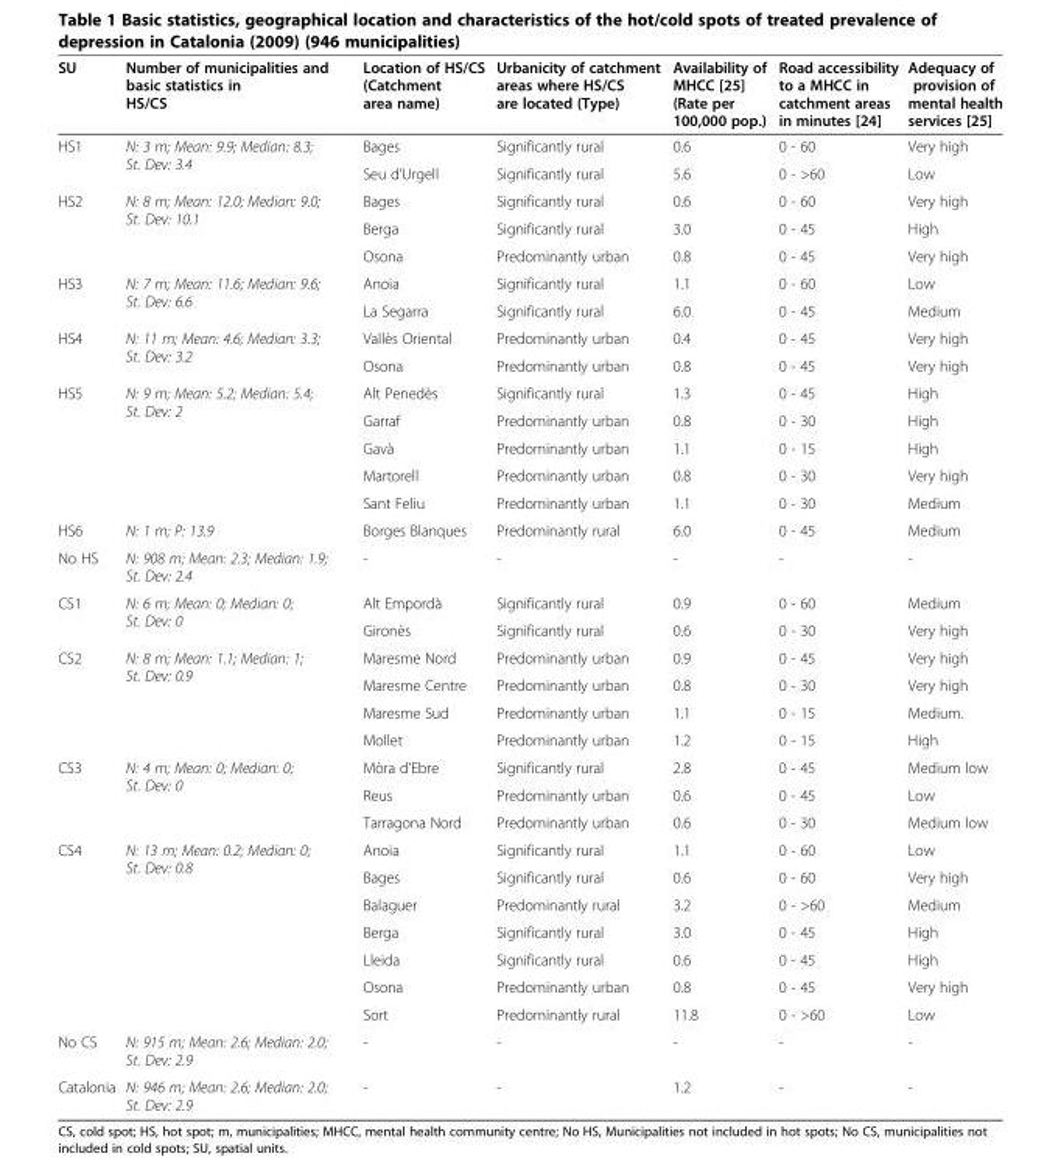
<table><thead><tr><td>SU</td><td>Number of municipalities and basic statistics in HS/CS</td><td>Location of HS/CS (Catchment area name)</td><td>Urbanicity of catchment areas where HS/CS are located (Type)</td><td>Availability of MHCC [25] (Rate per 100,000 pop.)</td><td>Road accessibility to a MHCC in catchment areas in minutes [24]</td><td>Adequacy of provision of mental health services [25]</td></tr></thead><tbody><tr><td rowspan="2">HS1</td><td rowspan="2">N: 3 m; Mean: 9.9; Median: 8.3; St. Dev: 3.4</td><td>Bages</td><td>Significantly rural</td><td>0.6</td><td>0 - 60</td><td>Very high</td></tr><tr><td>Seu d’Urgell</td><td>Significantly rural</td><td>5.6</td><td>0 - &gt;60</td><td>Low</td></tr><tr><td rowspan="3">HS2</td><td rowspan="3">N: 8 m; Mean: 12.0; Median: 9.0; St. Dev: 10.1</td><td>Bages</td><td>Significantly rural</td><td>0.6</td><td>0 - 60</td><td>Very high</td></tr><tr><td>Berga</td><td>Significantly rural</td><td>3.0</td><td>0 - 45</td><td>High</td></tr><tr><td>Osona</td><td>Predominantly urban</td><td>0.8</td><td>0 - 45</td><td>Very high</td></tr><tr><td rowspan="2">HS3</td><td rowspan="2">N: 7 m; Mean: 11.6; Median: 9.6; St. Dev: 6.6</td><td>Anoia</td><td>Significantly rural</td><td>1.1</td><td>0 - 60</td><td>Low</td></tr><tr><td>La Segarra</td><td>Significantly rural</td><td>6.0</td><td>0 - 45</td><td>Medium</td></tr><tr><td rowspan="2">HS4</td><td rowspan="2">N: 11 m; Mean: 4.6; Median: 3.3; St. Dev: 3.2</td><td>Vallès Oriental</td><td>Predominantly urban</td><td>0.4</td><td>0 - 45</td><td>Very high</td></tr><tr><td>Osona</td><td>Predominantly urban</td><td>0.8</td><td>0 - 45</td><td>Very high</td></tr><tr><td rowspan="5">HS5</td><td rowspan="5">N: 9 m; Mean: 5.2; Median: 5.4; St. Dev: 2</td><td>Alt Penedès</td><td>Significantly rural</td><td>1.3</td><td>0 - 45</td><td>High</td></tr><tr><td>Garraf</td><td>Predominantly urban</td><td>0.8</td><td>0 - 30</td><td>High</td></tr><tr><td>Gavà</td><td>Predominantly urban</td><td>1.1</td><td>0 - 15</td><td>High</td></tr><tr><td>Martorell</td><td>Predominantly urban</td><td>0.8</td><td>0 - 30</td><td>Very high</td></tr><tr><td>Sant Feliu</td><td>Predominantly urban</td><td>1.1</td><td>0 - 30</td><td>Medium</td></tr><tr><td>HS6</td><td>N: 1 m; P: 13.9</td><td>Borges Blanques</td><td>Predominantly rural</td><td>6.0</td><td>0 - 45</td><td>Medium</td></tr><tr><td>No HS</td><td>N: 908 m; Mean: 2.3; Median: 1.9; St. Dev: 2.4</td><td>-</td><td>-</td><td>-</td><td>-</td><td>-</td></tr><tr><td rowspan="2">CS1</td><td rowspan="2">N: 6 m; Mean: 0; Median: 0; St. Dev: 0</td><td>Alt Empordà</td><td>Significantly rural</td><td>0.9</td><td>0 - 60</td><td>Medium</td></tr><tr><td>Gironès</td><td>Significantly rural</td><td>0.6</td><td>0 - 30</td><td>Very high</td></tr><tr><td rowspan="4">CS2</td><td rowspan="4">N: 8 m; Mean: 1.1; Median: 1; St. Dev: 0.9</td><td>Maresme Nord</td><td>Predominantly urban</td><td>0.9</td><td>0 - 45</td><td>Very high</td></tr><tr><td>Maresme Centre</td><td>Predominantly urban</td><td>0.8</td><td>0 - 30</td><td>Very high</td></tr><tr><td>Maresme Sud</td><td>Predominantly urban</td><td>1.1</td><td>0 - 15</td><td>Medium.</td></tr><tr><td>Mollet</td><td>Predominantly urban</td><td>1.2</td><td>0 - 15</td><td>High</td></tr><tr><td rowspan="3">CS3</td><td rowspan="3">N: 4 m; Mean: 0; Median: 0; St. Dev: 0</td><td>Mòra d’Ebre</td><td>Significantly rural</td><td>2.8</td><td>0 - 45</td><td>Medium low</td></tr><tr><td>Reus</td><td>Predominantly urban</td><td>0.6</td><td>0 - 45</td><td>Low</td></tr><tr><td>Tarragona Nord</td><td>Predominantly urban</td><td>0.6</td><td>0 - 30</td><td>Medium low</td></tr><tr><td rowspan="7">CS4</td><td rowspan="7">N: 13 m; Mean: 0.2; Median: 0; St. Dev: 0.8</td><td>Anoia</td><td>Significantly rural</td><td>1.1</td><td>0 - 60</td><td>Low</td></tr><tr><td>Bages</td><td>Significantly rural</td><td>0.6</td><td>0 - 60</td><td>Very high</td></tr><tr><td>Balaguer</td><td>Predominantly rural</td><td>3.2</td><td>0 - &gt;60</td><td>Medium</td></tr><tr><td>Berga</td><td>Significantly rural</td><td>3.0</td><td>0 - 45</td><td>High</td></tr><tr><td>Lleida</td><td>Significantly rural</td><td>0.6</td><td>0 - 45</td><td>High</td></tr><tr><td>Osona</td><td>Predominantly urban</td><td>0.8</td><td>0 - 45</td><td>Very high</td></tr><tr><td>Sort</td><td>Predominantly rural</td><td>11.8</td><td>0 - &gt;60</td><td>Low</td></tr><tr><td>No CS</td><td>N: 915 m; Mean: 2.6; Median: 2.0; St. Dev: 2.9</td><td>-</td><td>-</td><td>-</td><td>-</td><td>-</td></tr><tr><td>Catalonia</td><td>N: 946 m; Mean: 2.6; Median: 2.0; St. Dev: 2.9</td><td>-</td><td>-</td><td>1.2</td><td>-</td><td>-</td></tr></tbody></table>